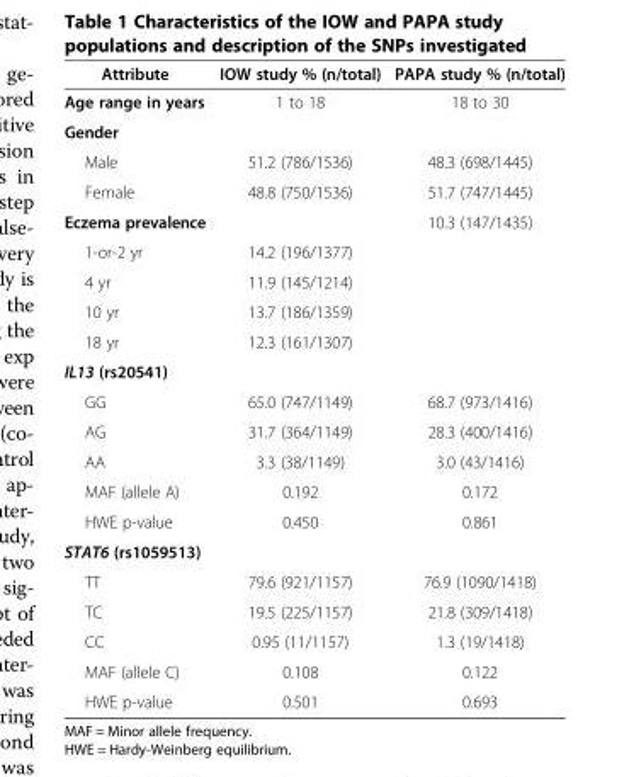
<table><thead><tr><td>Attribute</td><td>IOW study % (n/total)</td><td>PAPA study % (n/total)</td></tr></thead><tbody><tr><td>Age range in years</td><td>1 to 18</td><td>18 to 30</td></tr><tr><td colspan="3">Gender</td></tr><tr><td>Male</td><td>51.2 (786/1536)</td><td>48.3 (698/1445)</td></tr><tr><td>Female</td><td>48.8 (750/1536)</td><td>51.7 (747/1445)</td></tr><tr><td>Eczema prevalence</td><td></td><td>10.3 (147/1435)</td></tr><tr><td>1-or-2 yr</td><td>14.2 (196/1377)</td><td></td></tr><tr><td>4 yr</td><td>11.9 (145/1214)</td><td></td></tr><tr><td>10 yr</td><td>13.7 (186/1359)</td><td></td></tr><tr><td>18 yr</td><td>12.3 (161/1307)</td><td></td></tr><tr><td colspan="3">IL13 (rs20541)</td></tr><tr><td>GG</td><td>65.0 (747/1149)</td><td>68.7 (973/1416)</td></tr><tr><td>AG</td><td>31.7 (364/1149)</td><td>28.3 (400/1416)</td></tr><tr><td>AA</td><td>3.3 (38/1149)</td><td>3.0 (43/1416)</td></tr><tr><td>MAF (allele A)</td><td>0.192</td><td>0.172</td></tr><tr><td>HWE p-value</td><td>0.450</td><td>0.861</td></tr><tr><td colspan="3">STAT6 (rs1059513)</td></tr><tr><td>TT</td><td>79.6 (921/1157)</td><td>76.9 (1090/1418)</td></tr><tr><td>TC</td><td>19.5 (225/1157)</td><td>21.8 (309/1418)</td></tr><tr><td>CC</td><td>0.95 (11/1157)</td><td>1.3 (19/1418)</td></tr><tr><td>MAF (allele C)</td><td>0.108</td><td>0.122</td></tr><tr><td>HWE p-value</td><td>0.501</td><td>0.693</td></tr></tbody></table>